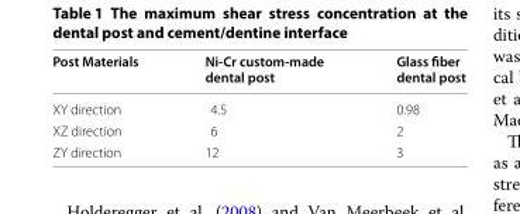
<table><thead><tr><td>Post Materials</td><td>Ni-Cr custom-made dental post</td><td>Glass fiber dental post</td></tr></thead><tbody><tr><td>XY direction</td><td>4.5</td><td>0.98</td></tr><tr><td>XZ direction</td><td>6</td><td>2</td></tr><tr><td>ZY direction</td><td>12</td><td>3</td></tr></tbody></table>